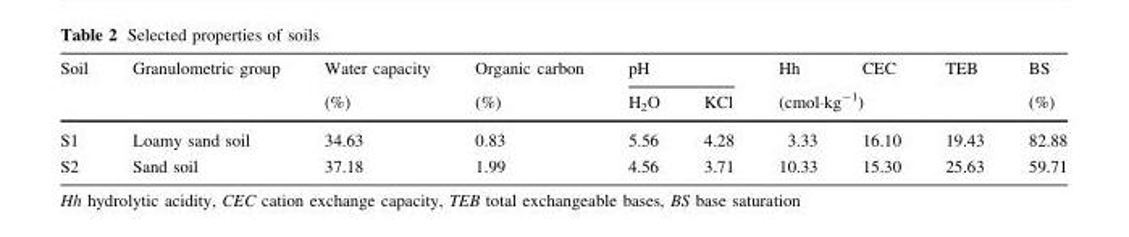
<table><thead><tr><td rowspan="2">Soil</td><td rowspan="2">Granulometric group</td><td rowspan="2">Water capacity (%)</td><td rowspan="2">Organic carbon (%)</td><td colspan="2">pH</td><td>Hh</td><td>CEC</td><td>TEB</td><td rowspan="2">BS (%)</td></tr><tr><td>H<sub>2</sub>O</td><td>KCl</td><td colspan="3">(cmol·kg<sup>-1</sup>)</td></tr></thead><tbody><tr><td>S1</td><td>Loamy sand soil</td><td>34.63</td><td>0.83</td><td>5.56</td><td>4.28</td><td>3.33</td><td>16.10</td><td>19.43</td><td>82.88</td></tr><tr><td>S2</td><td>Sand soil</td><td>37.18</td><td>1.99</td><td>4.56</td><td>3.71</td><td>10.33</td><td>15.30</td><td>25.63</td><td>59.71</td></tr></tbody></table>